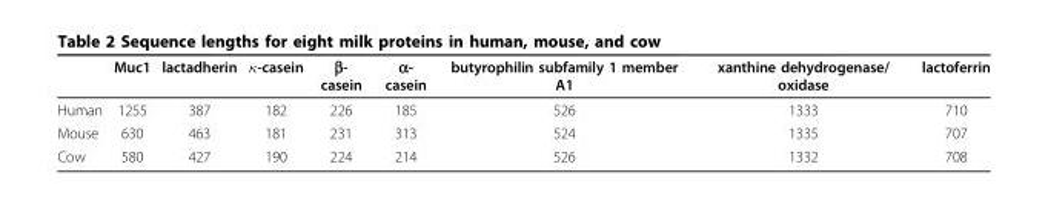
<table><thead><tr><td></td><td>Muc1</td><td>lactadherin</td><td>κ-casein</td><td>β- casein</td><td>α- casein</td><td>butyrophilin subfamily 1 member A1</td><td>xanthine dehydrogenase/ oxidase</td><td>lactoferrin</td></tr></thead><tbody><tr><td>Human</td><td>1255</td><td>387</td><td>182</td><td>226</td><td>185</td><td>526</td><td>1333</td><td>710</td></tr><tr><td>Mouse</td><td>630</td><td>463</td><td>181</td><td>231</td><td>313</td><td>524</td><td>1335</td><td>707</td></tr><tr><td>Cow</td><td>580</td><td>427</td><td>190</td><td>224</td><td>214</td><td>526</td><td>1332</td><td>708</td></tr></tbody></table>